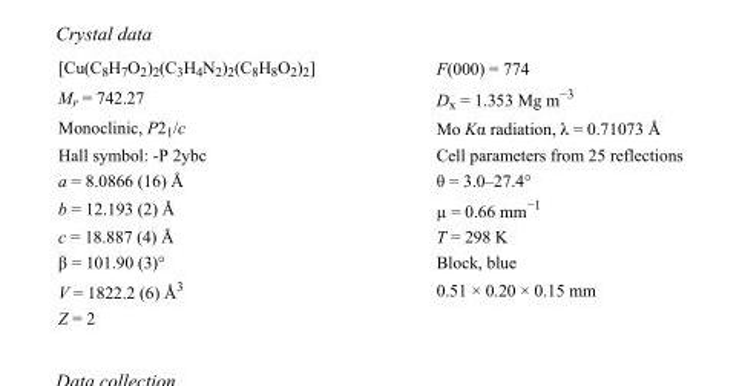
<table><tbody><tr><td>[Cu(C<sub>8</sub>H<sub>7</sub>O<sub>2</sub>)<sub>2</sub>(C<sub>3</sub>H<sub>4</sub>N<sub>2</sub>)<sub>2</sub>(C<sub>8</sub>H<sub>8</sub>O<sub>2</sub>)<sub>2</sub>]</td><td>F(000) = 774</td></tr><tr><td>M<sub>r</sub> = 742.27</td><td>D<sub>x</sub> = 1.353 Mg m<sup>−3</sup></td></tr><tr><td>Monoclinic, P2<sub>1</sub>/c</td><td>Mo Kα radiation, λ = 0.71073 Å</td></tr><tr><td>Hall symbol: -P 2ybc</td><td>Cell parameters from 25 reflections</td></tr><tr><td>a = 8.0866 (16) Å</td><td>θ = 3.0–27.4°</td></tr><tr><td>b = 12.193 (2) Å</td><td>µ = 0.66 mm<sup>−1</sup></td></tr><tr><td>c = 18.887 (4) Å</td><td>T = 298 K</td></tr><tr><td>β = 101.90 (3)°</td><td>Block, blue</td></tr><tr><td>V = 1822.2 (6) Å<sup>3</sup></td><td>0.51 × 0.20 × 0.15 mm</td></tr><tr><td>Z = 2</td><td></td></tr></tbody></table>